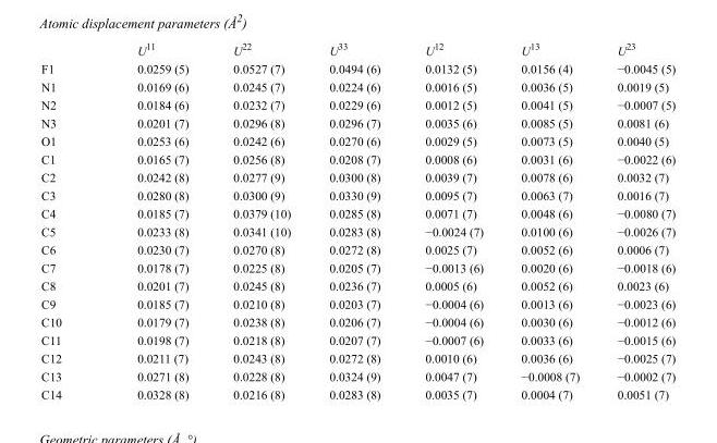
<table><thead><tr><td></td><td>U<sup>11</sup></td><td>U<sup>22</sup></td><td>U<sup>33</sup></td><td>U<sup>12</sup></td><td>U<sup>13</sup></td><td>U<sup>23</sup></td></tr></thead><tbody><tr><td>F1</td><td>0.0259 (5)</td><td>0.0527 (7)</td><td>0.0494 (6)</td><td>0.0132 (5)</td><td>0.0156 (4)</td><td>−0.0045 (5)</td></tr><tr><td>N1</td><td>0.0169 (6)</td><td>0.0245 (7)</td><td>0.0224 (6)</td><td>0.0016 (5)</td><td>0.0036 (5)</td><td>0.0019 (5)</td></tr><tr><td>N2</td><td>0.0184 (6)</td><td>0.0232 (7)</td><td>0.0229 (6)</td><td>0.0012 (5)</td><td>0.0041 (5)</td><td>−0.0007 (5)</td></tr><tr><td>N3</td><td>0.0201 (7)</td><td>0.0296 (8)</td><td>0.0296 (7)</td><td>0.0035 (6)</td><td>0.0085 (5)</td><td>0.0081 (6)</td></tr><tr><td>O1</td><td>0.0253 (6)</td><td>0.0242 (6)</td><td>0.0270 (6)</td><td>0.0029 (5)</td><td>0.0073 (5)</td><td>0.0040 (5)</td></tr><tr><td>C1</td><td>0.0165 (7)</td><td>0.0256 (8)</td><td>0.0208 (7)</td><td>0.0008 (6)</td><td>0.0031 (6)</td><td>−0.0022 (6)</td></tr><tr><td>C2</td><td>0.0242 (8)</td><td>0.0277 (9)</td><td>0.0300 (8)</td><td>0.0039 (7)</td><td>0.0078 (6)</td><td>0.0032 (7)</td></tr><tr><td>C3</td><td>0.0280 (8)</td><td>0.0300 (9)</td><td>0.0330 (9)</td><td>0.0095 (7)</td><td>0.0063 (7)</td><td>0.0016 (7)</td></tr><tr><td>C4</td><td>0.0185 (7)</td><td>0.0379 (10)</td><td>0.0285 (8)</td><td>0.0071 (7)</td><td>0.0048 (6)</td><td>−0.0080 (7)</td></tr><tr><td>C5</td><td>0.0233 (8)</td><td>0.0341 (10)</td><td>0.0283 (8)</td><td>−0.0024 (7)</td><td>0.0100 (6)</td><td>−0.0026 (7)</td></tr><tr><td>C6</td><td>0.0230 (7)</td><td>0.0270 (8)</td><td>0.0272 (8)</td><td>0.0025 (7)</td><td>0.0052 (6)</td><td>0.0006 (7)</td></tr><tr><td>C7</td><td>0.0178 (7)</td><td>0.0225 (8)</td><td>0.0205 (7)</td><td>−0.0013 (6)</td><td>0.0020 (6)</td><td>−0.0018 (6)</td></tr><tr><td>C8</td><td>0.0201 (7)</td><td>0.0245 (8)</td><td>0.0236 (7)</td><td>0.0005 (6)</td><td>0.0052 (6)</td><td>0.0023 (6)</td></tr><tr><td>C9</td><td>0.0185 (7)</td><td>0.0210 (8)</td><td>0.0203 (7)</td><td>−0.0004 (6)</td><td>0.0013 (6)</td><td>−0.0023 (6)</td></tr><tr><td>C10</td><td>0.0179 (7)</td><td>0.0238 (8)</td><td>0.0206 (7)</td><td>−0.0004 (6)</td><td>0.0030 (6)</td><td>−0.0012 (6)</td></tr><tr><td>C11</td><td>0.0198 (7)</td><td>0.0218 (8)</td><td>0.0207 (7)</td><td>−0.0007 (6)</td><td>0.0033 (6)</td><td>−0.0015 (6)</td></tr><tr><td>C12</td><td>0.0211 (7)</td><td>0.0243 (8)</td><td>0.0272 (8)</td><td>0.0010 (6)</td><td>0.0036 (6)</td><td>−0.0025 (7)</td></tr><tr><td>C13</td><td>0.0271 (8)</td><td>0.0228 (8)</td><td>0.0324 (9)</td><td>0.0047 (7)</td><td>−0.0008 (7)</td><td>−0.0002 (7)</td></tr><tr><td>C14</td><td>0.0328 (8)</td><td>0.0216 (8)</td><td>0.0283 (8)</td><td>0.0035 (7)</td><td>0.0004 (7)</td><td>0.0051 (7)</td></tr></tbody></table>